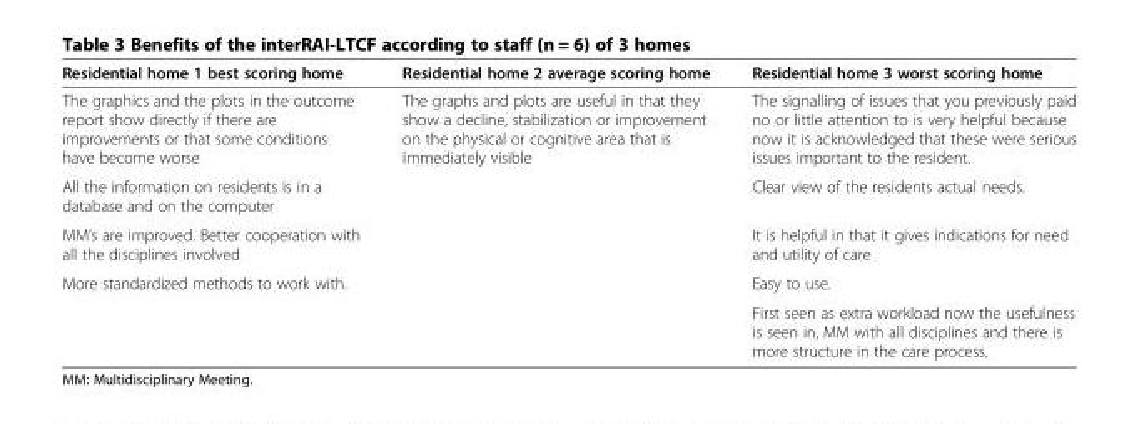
<table><thead><tr><td>Residential home 1 best scoring home</td><td>Residential home 2 average scoring home</td><td>Residential home 3 worst scoring home</td></tr></thead><tbody><tr><td>The graphics and the plots in the outcome report show directly if there are improvements or that some conditions have become worse</td><td>The graphs and plots are useful in that they show a decline, stabilization or improvement on the physical or cognitive area that is immediately visible</td><td>The signalling of issues that you previously paid no or little attention to is very helpful because now it is acknowledged that these were serious issues important to the resident.</td></tr><tr><td>All the information on residents is in a database and on the computer</td><td></td><td>Clear view of the residents actual needs.</td></tr><tr><td>MM’s are improved. Better cooperation with all the disciplines involved</td><td></td><td>It is helpful in that it gives indications for need and utility of care</td></tr><tr><td rowspan="2">More standardized methods to work with.</td><td></td><td>Easy to use.</td></tr><tr><td></td><td>First seen as extra workload now the usefulness is seen in, MM with all disciplines and there is more structure in the care process.</td></tr></tbody></table>